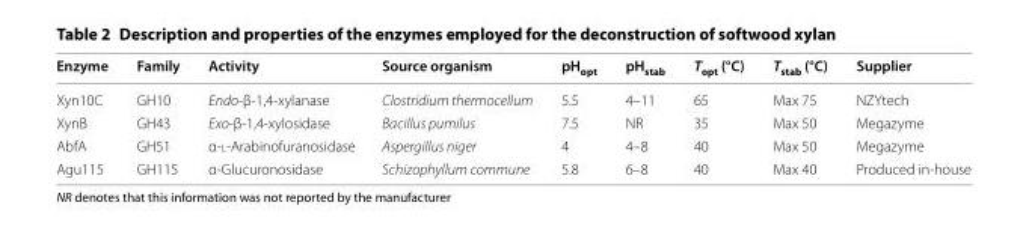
<table><thead><tr><td>Enzyme</td><td>Family</td><td>Activity</td><td>Source organism</td><td>pH<sub>opt</sub></td><td>pH<sub>stab</sub></td><td>T<sub>opt</sub> (°C)</td><td>T<sub>stab</sub> (°C)</td><td>Supplier</td></tr></thead><tbody><tr><td>Xyn10C</td><td>GH10</td><td>Endo-β-1,4-xylanase</td><td>Clostridium thermocellum</td><td>5.5</td><td>4–11</td><td>65</td><td>Max 75</td><td>NZYtech</td></tr><tr><td>XynB</td><td>GH43</td><td>Exo-β-1,4-xylosidase</td><td>Bacillus pumilus</td><td>7.5</td><td>NR</td><td>35</td><td>Max 50</td><td>Megazyme</td></tr><tr><td>AbfA</td><td>GH51</td><td>α-l-Arabinofuranosidase</td><td>Aspergillus niger</td><td>4</td><td>4–8</td><td>40</td><td>Max 50</td><td>Megazyme</td></tr><tr><td>Agu115</td><td>GH115</td><td>α-Glucuronosidase</td><td>Schizophyllum commune</td><td>5.8</td><td>6–8</td><td>40</td><td>Max 40</td><td>Produced in-house</td></tr></tbody></table>